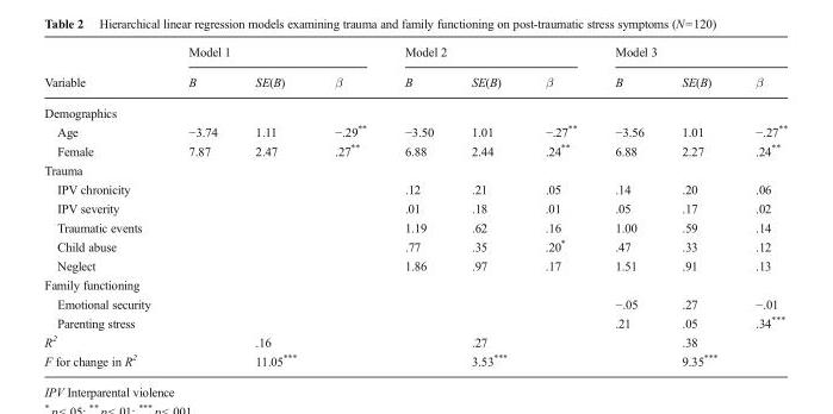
<table><thead><tr><td rowspan="2">Variable</td><td colspan="3">Model 1</td><td colspan="3">Model 2</td><td colspan="3">Model 3</td></tr><tr><td>Β</td><td>SE(B)</td><td>β</td><td>Β</td><td>SE(B)</td><td>β</td><td>Β</td><td>SE(B)</td><td>β</td></tr></thead><tbody><tr><td colspan="10">Demographics</td></tr><tr><td>Age</td><td>−3.74</td><td>1.11</td><td>−.29**</td><td>−3.50</td><td>1.01</td><td>−.27**</td><td>−3.56</td><td>1.01</td><td>−.27**</td></tr><tr><td>Female</td><td>7.87</td><td>2.47</td><td>.27**</td><td>6.88</td><td>2.44</td><td>.24**</td><td>6.88</td><td>2.27</td><td>.24**</td></tr><tr><td colspan="10">Trauma</td></tr><tr><td>IPV chronicity</td><td></td><td></td><td></td><td>.12</td><td>.21</td><td>.05</td><td>.14</td><td>.20</td><td>.06</td></tr><tr><td>IPV severity</td><td></td><td></td><td></td><td>.01</td><td>.18</td><td>.01</td><td>.05</td><td>.17</td><td>.02</td></tr><tr><td>Traumatic events</td><td></td><td></td><td></td><td>1.19</td><td>.62</td><td>.16</td><td>1.00</td><td>.59</td><td>.14</td></tr><tr><td>Child abuse</td><td></td><td></td><td></td><td>.77</td><td>.35</td><td>.20*</td><td>.47</td><td>.33</td><td>.12</td></tr><tr><td>Neglect</td><td></td><td></td><td></td><td>1.86</td><td>.97</td><td>.17</td><td>1.51</td><td>.91</td><td>.13</td></tr><tr><td colspan="10">Family functioning</td></tr><tr><td>Emotional security</td><td></td><td></td><td></td><td></td><td></td><td></td><td>−.05</td><td>.27</td><td>−.01</td></tr><tr><td>Parenting stress</td><td></td><td></td><td></td><td></td><td></td><td></td><td>.21</td><td>.05</td><td>.34***</td></tr><tr><td>R<sup>2</sup></td><td></td><td>.16</td><td></td><td></td><td>.27</td><td></td><td></td><td>.38</td><td></td></tr><tr><td>F for change in R<sup>2</sup></td><td></td><td>11.05***</td><td></td><td></td><td>3.53***</td><td></td><td></td><td>9.35***</td><td></td></tr></tbody></table>